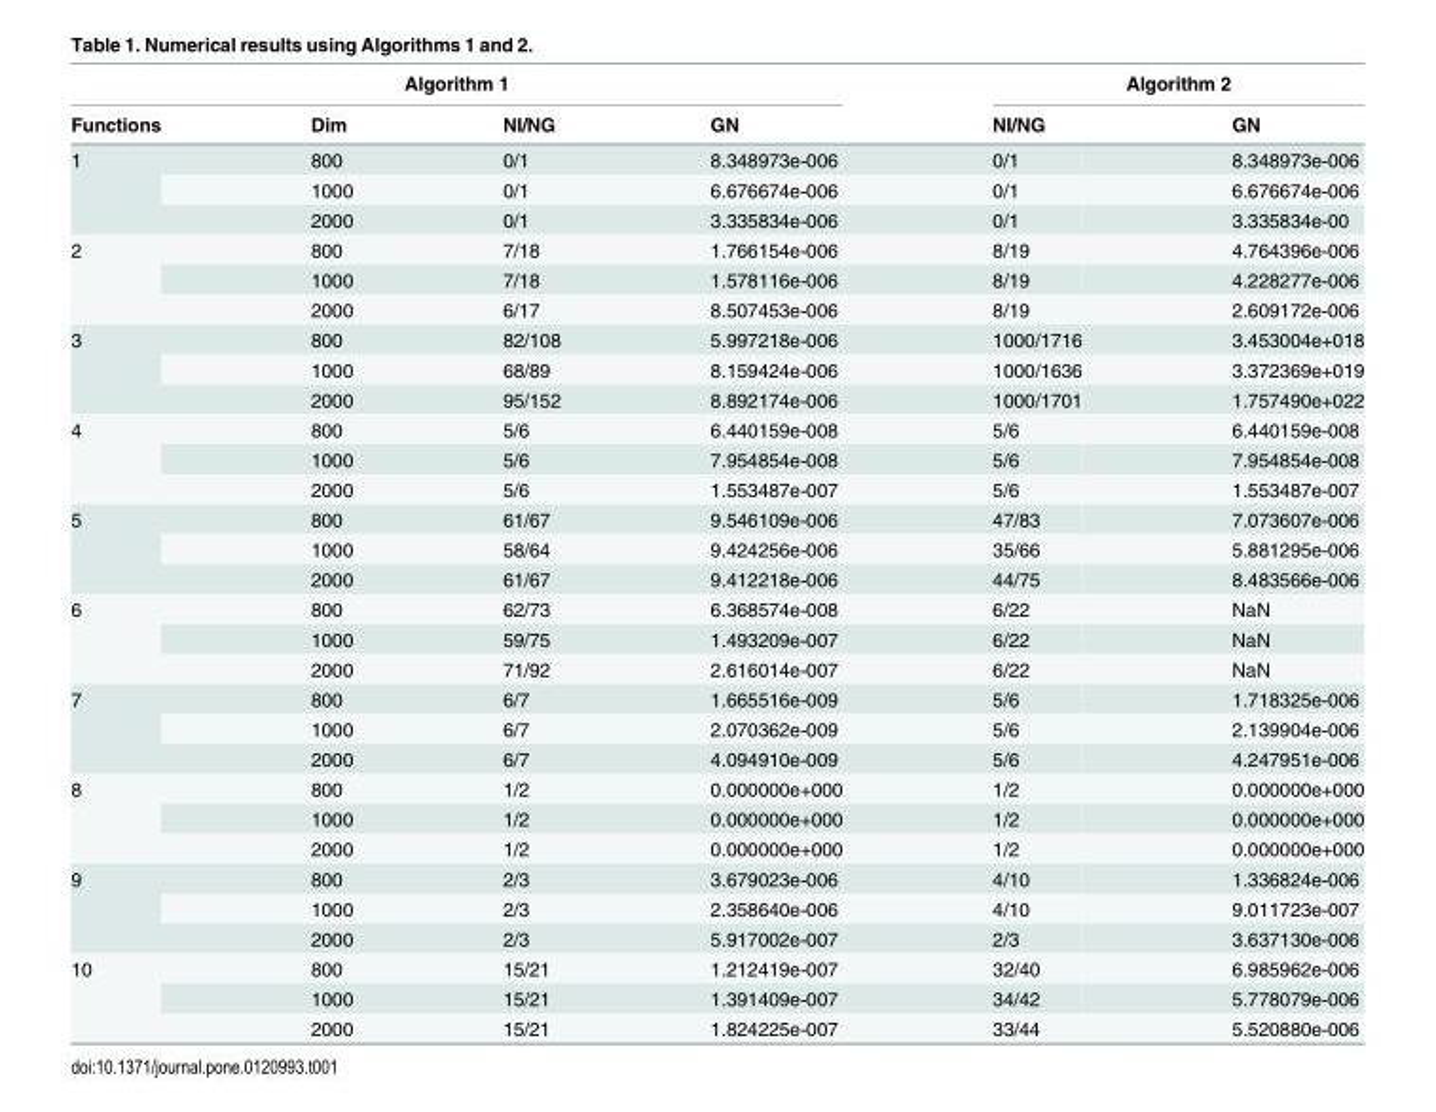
<table><thead><tr><td colspan="4">Algorithm 1</td><td colspan="2">Algorithm 2</td></tr><tr><td>Functions</td><td>Dim</td><td>NI/NG</td><td>GN</td><td>NI/NG</td><td>GN</td></tr></thead><tbody><tr><td rowspan="3">1</td><td>800</td><td>0/1</td><td>8.348973e-006</td><td>0/1</td><td>8.348973e-006</td></tr><tr><td>1000</td><td>0/1</td><td>6.676674e-006</td><td>0/1</td><td>6.676674e-006</td></tr><tr><td>2000</td><td>0/1</td><td>3.335834e-006</td><td>0/1</td><td>3.335834e-00</td></tr><tr><td rowspan="3">2</td><td>800</td><td>7/18</td><td>1.766154e-006</td><td>8/19</td><td>4.764396e-006</td></tr><tr><td>1000</td><td>7/18</td><td>1.578116e-006</td><td>8/19</td><td>4.228277e-006</td></tr><tr><td>2000</td><td>6/17</td><td>8.507453e-006</td><td>8/19</td><td>2.609172e-006</td></tr><tr><td rowspan="3">3</td><td>800</td><td>82/108</td><td>5.997218e-006</td><td>1000/1716</td><td>3.453004e+018</td></tr><tr><td>1000</td><td>68/89</td><td>8.159424e-006</td><td>1000/1636</td><td>3.372369e+019</td></tr><tr><td>2000</td><td>95/152</td><td>8.892174e-006</td><td>1000/1701</td><td>1.757490e+022</td></tr><tr><td rowspan="3">4</td><td>800</td><td>5/6</td><td>6.440159e-008</td><td>5/6</td><td>6.440159e-008</td></tr><tr><td>1000</td><td>5/6</td><td>7.954854e-008</td><td>5/6</td><td>7.954854e-008</td></tr><tr><td>2000</td><td>5/6</td><td>1.553487e-007</td><td>5/6</td><td>1.553487e-007</td></tr><tr><td rowspan="3">5</td><td>800</td><td>61/67</td><td>9.546109e-006</td><td>47/83</td><td>7.073607e-006</td></tr><tr><td>1000</td><td>58/64</td><td>9.424256e-006</td><td>35/66</td><td>5.881295e-006</td></tr><tr><td>2000</td><td>61/67</td><td>9.412218e-006</td><td>44/75</td><td>8.483566e-006</td></tr><tr><td rowspan="3">6</td><td>800</td><td>62/73</td><td>6.368574e-008</td><td>6/22</td><td>NaN</td></tr><tr><td>1000</td><td>59/75</td><td>1.493209e-007</td><td>6/22</td><td>NaN</td></tr><tr><td>2000</td><td>71/92</td><td>2.616014e-007</td><td>6/22</td><td>NaN</td></tr><tr><td rowspan="3">7</td><td>800</td><td>6/7</td><td>1.665516e-009</td><td>5/6</td><td>1.718325e-006</td></tr><tr><td>1000</td><td>6/7</td><td>2.070362e-009</td><td>5/6</td><td>2.139904e-006</td></tr><tr><td>2000</td><td>6/7</td><td>4.094910e-009</td><td>5/6</td><td>4.247951e-006</td></tr><tr><td rowspan="3">8</td><td>800</td><td>1/2</td><td>0.000000e+000</td><td>1/2</td><td>0.000000e+000</td></tr><tr><td>1000</td><td>1/2</td><td>0.000000e+000</td><td>1/2</td><td>0.000000e+000</td></tr><tr><td>2000</td><td>1/2</td><td>0.000000e+000</td><td>1/2</td><td>0.000000e+000</td></tr><tr><td rowspan="3">9</td><td>800</td><td>2/3</td><td>3.679023e-006</td><td>4/10</td><td>1.336824e-006</td></tr><tr><td>1000</td><td>2/3</td><td>2.358640e-006</td><td>4/10</td><td>9.011723e-007</td></tr><tr><td>2000</td><td>2/3</td><td>5.917002e-007</td><td>2/3</td><td>3.637130e-006</td></tr><tr><td rowspan="3">10</td><td>800</td><td>15/21</td><td>1.212419e-007</td><td>32/40</td><td>6.985962e-006</td></tr><tr><td>1000</td><td>15/21</td><td>1.391409e-007</td><td>34/42</td><td>5.778079e-006</td></tr><tr><td>2000</td><td>15/21</td><td>1.824225e-007</td><td>33/44</td><td>5.520880e-006</td></tr></tbody></table>